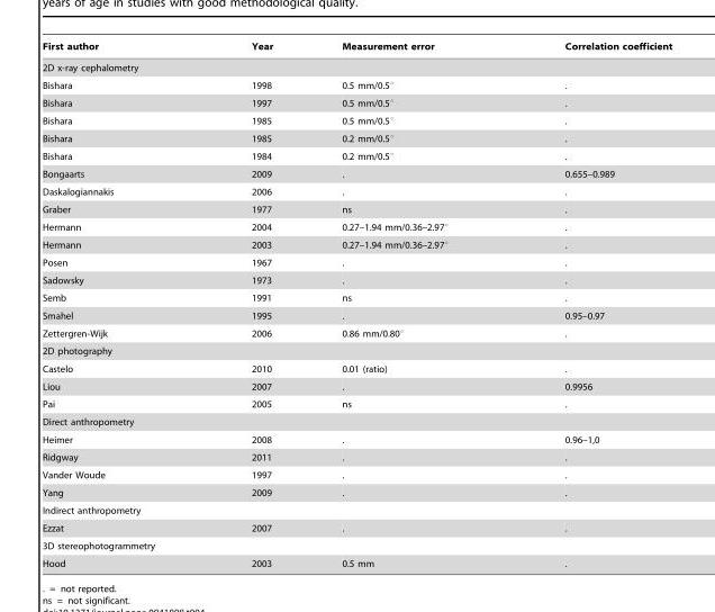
<table><thead><tr><td>First author</td><td>Year</td><td>Measurement error</td><td>Correlation coefficient</td></tr></thead><tbody><tr><td colspan="4">2D x-ray cephalometry</td></tr><tr><td>Bishara</td><td>1998</td><td>0.5 mm/0.5°</td><td>.</td></tr><tr><td>Bishara</td><td>1997</td><td>0.5 mm/0.5°</td><td>.</td></tr><tr><td>Bishara</td><td>1985</td><td>0.5 mm/0.5°</td><td>.</td></tr><tr><td>Bishara</td><td>1985</td><td>0.2 mm/0.5°</td><td>.</td></tr><tr><td>Bishara</td><td>1984</td><td>0.2 mm/0.5°</td><td>.</td></tr><tr><td>Bongaarts</td><td>2009</td><td>.</td><td>0.655–0.989</td></tr><tr><td>Daskalogiannakis</td><td>2006</td><td>.</td><td>.</td></tr><tr><td>Graber</td><td>1977</td><td>ns</td><td>.</td></tr><tr><td>Hermann</td><td>2004</td><td>0.27–1.94 mm/0.36–2.97°</td><td>.</td></tr><tr><td>Hermann</td><td>2003</td><td>0.27–1.94 mm/0.36–2.97°</td><td>.</td></tr><tr><td>Posen</td><td>1967</td><td>.</td><td>.</td></tr><tr><td>Sadowsky</td><td>1973</td><td>.</td><td>.</td></tr><tr><td>Semb</td><td>1991</td><td>ns</td><td>.</td></tr><tr><td>Smahel</td><td>1995</td><td>.</td><td>0.95–0.97</td></tr><tr><td>Zettergren-Wijk</td><td>2006</td><td>0.86 mm/0.80°</td><td>.</td></tr><tr><td colspan="4">2D photography</td></tr><tr><td>Castelo</td><td>2010</td><td>0.01 (ratio)</td><td>.</td></tr><tr><td>Liou</td><td>2007</td><td>.</td><td>0.9956</td></tr><tr><td>Pai</td><td>2005</td><td>ns</td><td>.</td></tr><tr><td colspan="4">Direct anthropometry</td></tr><tr><td>Heimer</td><td>2008</td><td>.</td><td>0.96–1,0</td></tr><tr><td>Ridgway</td><td>2011</td><td>.</td><td>.</td></tr><tr><td>Vander Woude</td><td>1997</td><td>.</td><td>.</td></tr><tr><td>Yang</td><td>2009</td><td>.</td><td>.</td></tr><tr><td colspan="4">Indirect anthropometry</td></tr><tr><td>Ezzat</td><td>2007</td><td>.</td><td>.</td></tr><tr><td colspan="4">3D stereophotogrammetry</td></tr><tr><td>Hood</td><td>2003</td><td>0.5 mm</td><td>.</td></tr></tbody></table>